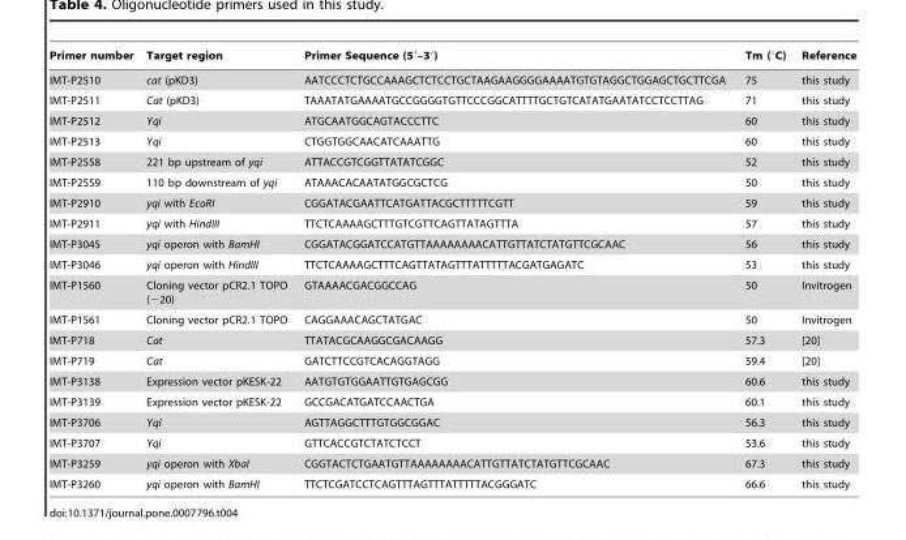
<table><thead><tr><td>Primer number</td><td>Target region</td><td>Primer Sequence (5′–3′)</td><td>Tm (°C)</td><td>Reference</td></tr></thead><tbody><tr><td>IMT-P2510</td><td>cat (pKD3)</td><td>AATCCCTCTGCCAAAGCTCTCCTGCTAAGAAGGGGAAAATGTGTAGGCTGGAGCTGCTTCGA</td><td>75</td><td>this study</td></tr><tr><td>IMT-P2511</td><td>Cat (pKD3)</td><td>TAAATATGAAAATGCCGGGGTGTTCCCGGCATTTTGCTGTCATATGAATATCCTCCTTAG</td><td>71</td><td>this study</td></tr><tr><td>IMT-P2512</td><td>Yqi</td><td>ATGCAATGGCAGTACCCTTC</td><td>60</td><td>this study</td></tr><tr><td>IMT-P2513</td><td>Yqi</td><td>CTGGTGGCAACATCAAATTG</td><td>60</td><td>this study</td></tr><tr><td>IMT-P2558</td><td>221 bp upstream of yqi</td><td>ATTACCGTCGGTTATATCGGC</td><td>52</td><td>this study</td></tr><tr><td>IMT-P2559</td><td>110 bp downstream of yqi</td><td>ATAAACACAATATGGCGCTCG</td><td>50</td><td>this study</td></tr><tr><td>IMT-P2910</td><td>yqi with EcoRI</td><td>CGGATACGAATTCATGATTACGCTTTTTCGTT</td><td>59</td><td>this study</td></tr><tr><td>IMT-P2911</td><td>yqi with HindIII</td><td>TTCTCAAAAGCTTTGTCGTTCAGTTATAGTTTA</td><td>57</td><td>this study</td></tr><tr><td>IMT-P3045</td><td>yqi operon with BamHI</td><td>CGGATACGGATCCATGTTAAAAAAAACATTGTTATCTATGTTCGCAAC</td><td>56</td><td>this study</td></tr><tr><td>IMT-P3046</td><td>yqi operon with HindIII</td><td>TTCTCAAAAGCTTTCAGTTATAGTTTATTTTTACGATGAGATC</td><td>53</td><td>this study</td></tr><tr><td>IMT-P1560</td><td>Cloning vector pCR2.1 TOPO (−20)</td><td>GTAAAACGACGGCCAG</td><td>50</td><td>Invitrogen</td></tr><tr><td>IMT-P1561</td><td>Cloning vector pCR2.1 TOPO</td><td>CAGGAAACAGCTATGAC</td><td>50</td><td>Invitrogen</td></tr><tr><td>IMT-P718</td><td>Cat</td><td>TTATACGCAAGGCGACAAGG</td><td>57.3</td><td>[20]</td></tr><tr><td>IMT-P719</td><td>Cat</td><td>GATCTTCCGTCACAGGTAGG</td><td>59.4</td><td>[20]</td></tr><tr><td>IMT-P3138</td><td>Expression vector pKESK-22</td><td>AATGTGTGGAATTGTGAGCGG</td><td>60.6</td><td>this study</td></tr><tr><td>IMT-P3139</td><td>Expression vector pKESK-22</td><td>GCCGACATGATCCAACTGA</td><td>60.1</td><td>this study</td></tr><tr><td>IMT-P3706</td><td>Yqi</td><td>AGTTAGGCTTTGTGGCGGAC</td><td>56.3</td><td>this study</td></tr><tr><td>IMT-P3707</td><td>Yqi</td><td>GTTCACCGTCTATCTCCT</td><td>53.6</td><td>this study</td></tr><tr><td>IMT-P3259</td><td>yqi operon with XbaI</td><td>CGGTACTCTGAATGTTAAAAAAAACATTGTTATCTATGTTCGCAAC</td><td>67.3</td><td>this study</td></tr><tr><td>IMT-P3260</td><td>yqi operon with BamHI</td><td>TTCTCGATCCTCAGTTTAGTTTATTTTTACGGGATC</td><td>66.6</td><td>this study</td></tr></tbody></table>